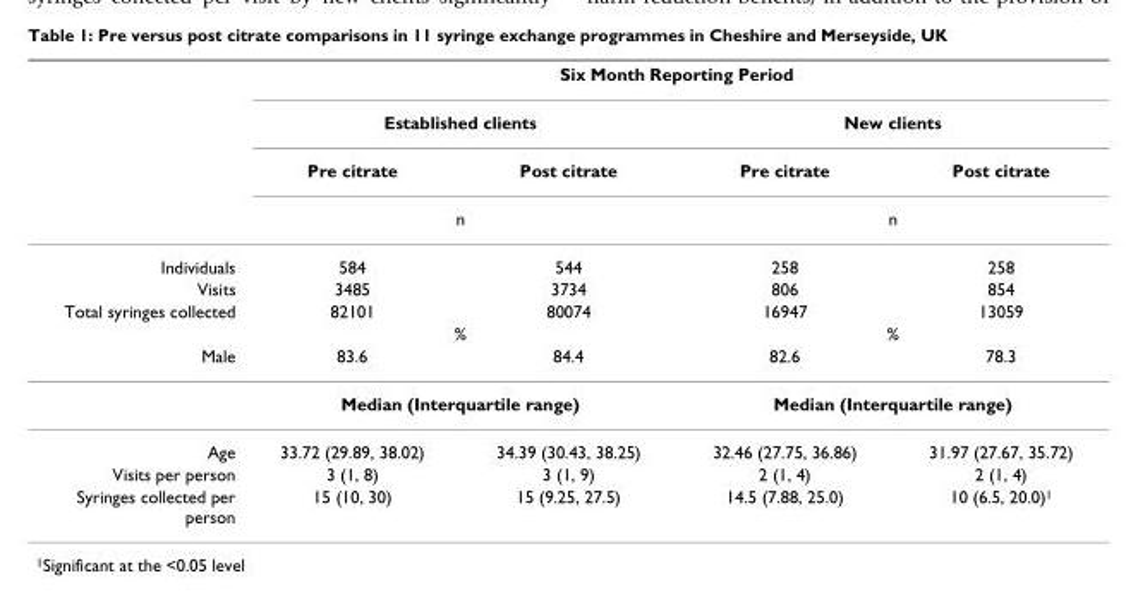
<table><thead><tr><td rowspan="4"></td><td colspan="4">Six Month Reporting Period</td></tr><tr><td colspan="2">Established clients</td><td colspan="2">New clients</td></tr><tr><td>Pre citrate</td><td>Post citrate</td><td>Pre citrate</td><td>Post citrate</td></tr><tr><td colspan="2">n</td><td colspan="2">n</td></tr></thead><tbody><tr><td>Individuals</td><td>584</td><td>544</td><td>258</td><td>258</td></tr><tr><td>Visits</td><td>3485</td><td>3734</td><td>806</td><td>854</td></tr><tr><td rowspan="2">Total syringes collected</td><td>82101</td><td>80074</td><td>16947</td><td>13059</td></tr><tr><td colspan="2">%</td><td colspan="2">%</td></tr><tr><td rowspan="2">Male</td><td>83.6</td><td>84.4</td><td>82.6</td><td>78.3</td></tr><tr><td colspan="2">Median (Interquartile range)</td><td colspan="2">Median (Interquartile range)</td></tr><tr><td>Age</td><td>33.72 (29.89, 38.02)</td><td>34.39 (30.43, 38.25)</td><td>32.46 (27.75, 36.86)</td><td>31.97 (27.67, 35.72)</td></tr><tr><td>Visits per person</td><td>3 (1, 8)</td><td>3 (1, 9)</td><td>2 (1, 4)</td><td>2 (1, 4)</td></tr><tr><td>Syringes collected per person</td><td>15 (10, 30)</td><td>15 (9.25, 27.5)</td><td>14.5 (7.88, 25.0)</td><td>10 (6.5, 20.0)<sup>1</sup></td></tr></tbody></table>